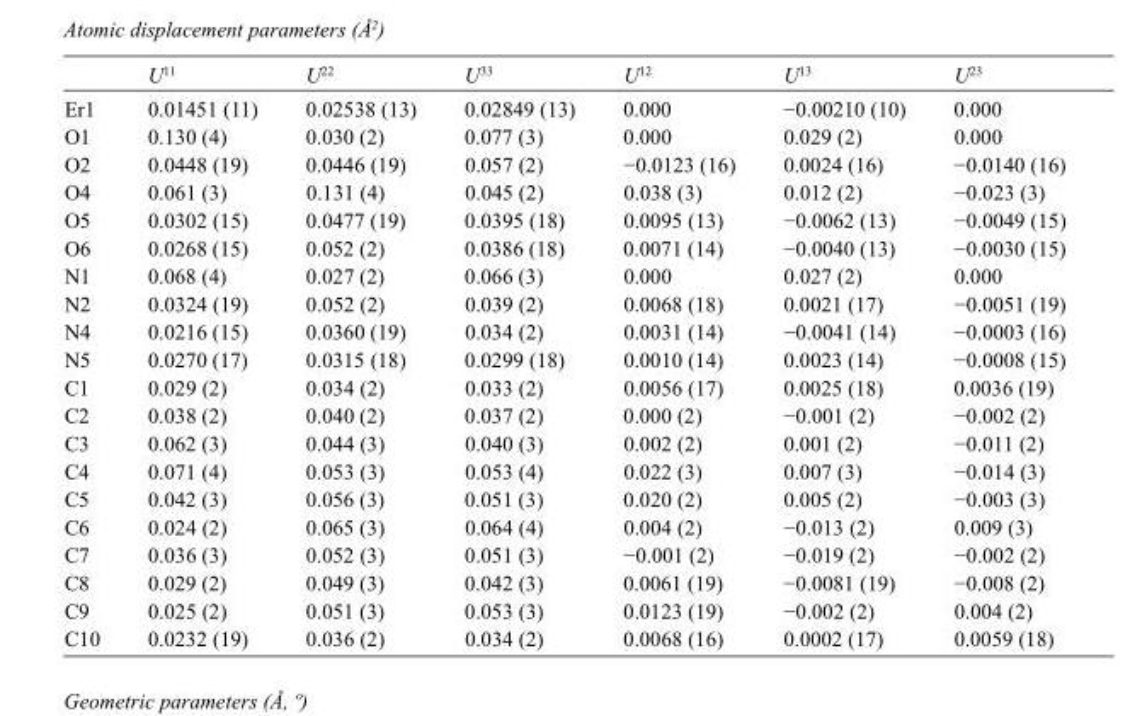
<table><thead><tr><td></td><td>U<sup>11</sup></td><td>U<sup>22</sup></td><td>U<sup>33</sup></td><td>U<sup>12</sup></td><td>U<sup>13</sup></td><td>U<sup>23</sup></td></tr></thead><tbody><tr><td>Er1</td><td>0.01451 (11)</td><td>0.02538 (13)</td><td>0.02849 (13)</td><td>0.000</td><td>−0.00210 (10)</td><td>0.000</td></tr><tr><td>O1</td><td>0.130 (4)</td><td>0.030 (2)</td><td>0.077 (3)</td><td>0.000</td><td>0.029 (2)</td><td>0.000</td></tr><tr><td>O2</td><td>0.0448 (19)</td><td>0.0446 (19)</td><td>0.057 (2)</td><td>−0.0123 (16)</td><td>0.0024 (16)</td><td>−0.0140 (16)</td></tr><tr><td>O4</td><td>0.061 (3)</td><td>0.131 (4)</td><td>0.045 (2)</td><td>0.038 (3)</td><td>0.012 (2)</td><td>−0.023 (3)</td></tr><tr><td>O5</td><td>0.0302 (15)</td><td>0.0477 (19)</td><td>0.0395 (18)</td><td>0.0095 (13)</td><td>−0.0062 (13)</td><td>−0.0049 (15)</td></tr><tr><td>O6</td><td>0.0268 (15)</td><td>0.052 (2)</td><td>0.0386 (18)</td><td>0.0071 (14)</td><td>−0.0040 (13)</td><td>−0.0030 (15)</td></tr><tr><td>N1</td><td>0.068 (4)</td><td>0.027 (2)</td><td>0.066 (3)</td><td>0.000</td><td>0.027 (2)</td><td>0.000</td></tr><tr><td>N2</td><td>0.0324 (19)</td><td>0.052 (2)</td><td>0.039 (2)</td><td>0.0068 (18)</td><td>0.0021 (17)</td><td>−0.0051 (19)</td></tr><tr><td>N4</td><td>0.0216 (15)</td><td>0.0360 (19)</td><td>0.034 (2)</td><td>0.0031 (14)</td><td>−0.0041 (14)</td><td>−0.0003 (16)</td></tr><tr><td>N5</td><td>0.0270 (17)</td><td>0.0315 (18)</td><td>0.0299 (18)</td><td>0.0010 (14)</td><td>0.0023 (14)</td><td>−0.0008 (15)</td></tr><tr><td>C1</td><td>0.029 (2)</td><td>0.034 (2)</td><td>0.033 (2)</td><td>0.0056 (17)</td><td>0.0025 (18)</td><td>0.0036 (19)</td></tr><tr><td>C2</td><td>0.038 (2)</td><td>0.040 (2)</td><td>0.037 (2)</td><td>0.000 (2)</td><td>−0.001 (2)</td><td>−0.002 (2)</td></tr><tr><td>C3</td><td>0.062 (3)</td><td>0.044 (3)</td><td>0.040 (3)</td><td>0.002 (2)</td><td>0.001 (2)</td><td>−0.011 (2)</td></tr><tr><td>C4</td><td>0.071 (4)</td><td>0.053 (3)</td><td>0.053 (4)</td><td>0.022 (3)</td><td>0.007 (3)</td><td>−0.014 (3)</td></tr><tr><td>C5</td><td>0.042 (3)</td><td>0.056 (3)</td><td>0.051 (3)</td><td>0.020 (2)</td><td>0.005 (2)</td><td>−0.003 (3)</td></tr><tr><td>C6</td><td>0.024 (2)</td><td>0.065 (3)</td><td>0.064 (4)</td><td>0.004 (2)</td><td>−0.013 (2)</td><td>0.009 (3)</td></tr><tr><td>C7</td><td>0.036 (3)</td><td>0.052 (3)</td><td>0.051 (3)</td><td>−0.001 (2)</td><td>−0.019 (2)</td><td>−0.002 (2)</td></tr><tr><td>C8</td><td>0.029 (2)</td><td>0.049 (3)</td><td>0.042 (3)</td><td>0.0061 (19)</td><td>−0.0081 (19)</td><td>−0.008 (2)</td></tr><tr><td>C9</td><td>0.025 (2)</td><td>0.051 (3)</td><td>0.053 (3)</td><td>0.0123 (19)</td><td>−0.002 (2)</td><td>0.004 (2)</td></tr><tr><td>C10</td><td>0.0232 (19)</td><td>0.036 (2)</td><td>0.034 (2)</td><td>0.0068 (16)</td><td>0.0002 (17)</td><td>0.0059 (18)</td></tr></tbody></table>